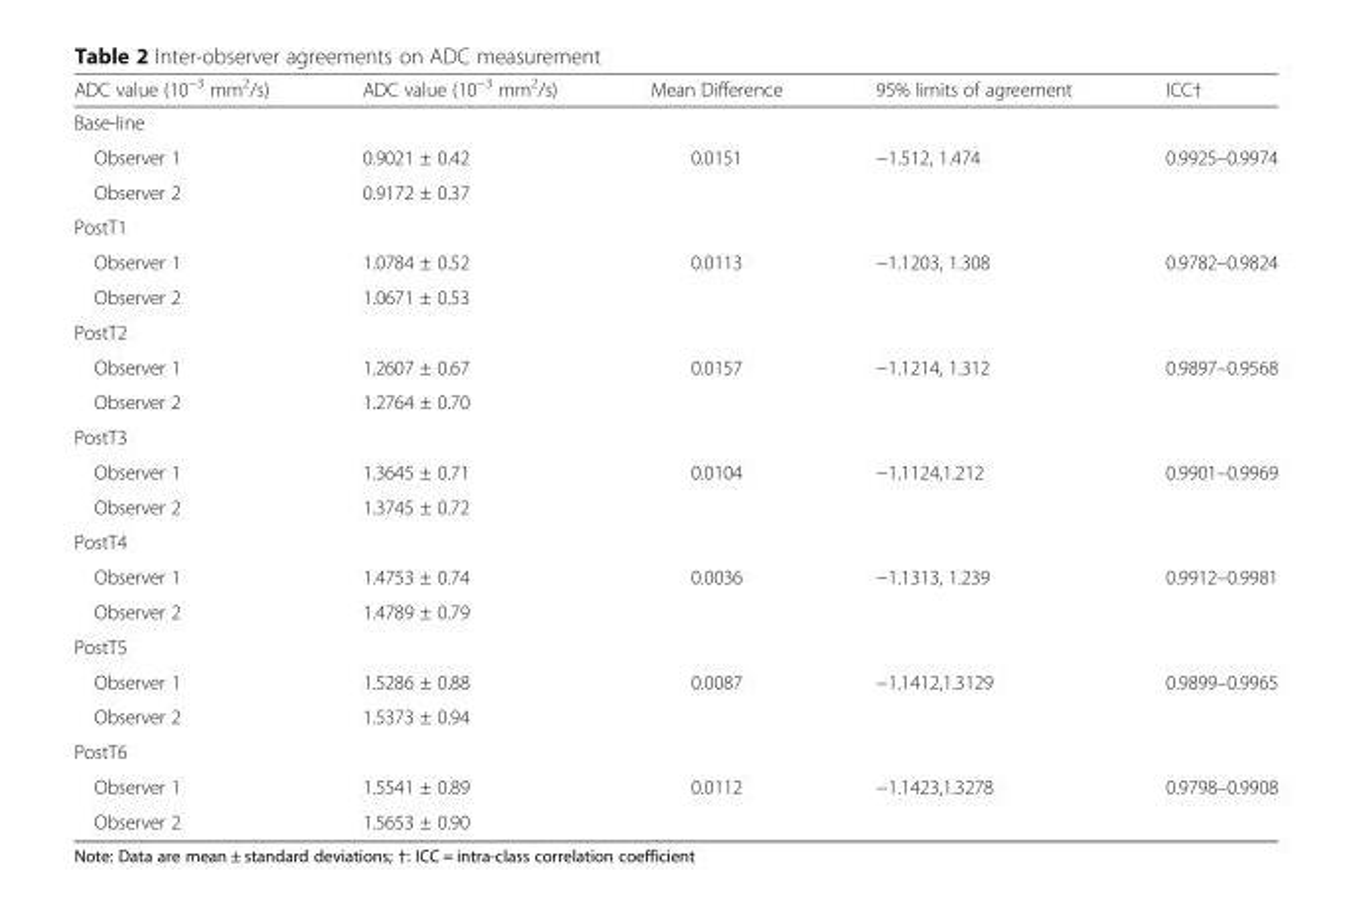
<table><thead><tr><td>ADC value (10−3 mm2/s)</td><td>ADC value (10−3 mm2/s)</td><td>Mean Difference</td><td>95% limits of agreement</td><td>ICC†</td></tr></thead><tbody><tr><td colspan="5">Base-line</td></tr><tr><td>Observer 1</td><td>0.9021 ± 0.42</td><td>0.0151</td><td>−1.512, 1.474</td><td>0.9925–0.9974</td></tr><tr><td>Observer 2</td><td>0.9172 ± 0.37</td><td></td><td></td><td></td></tr><tr><td colspan="5">PostT1</td></tr><tr><td>Observer 1</td><td>1.0784 ± 0.52</td><td>0.0113</td><td>−1.1203, 1.308</td><td>0.9782–0.9824</td></tr><tr><td>Observer 2</td><td>1.0671 ± 0.53</td><td></td><td></td><td></td></tr><tr><td colspan="5">PostT2</td></tr><tr><td>Observer 1</td><td>1.2607 ± 0.67</td><td>0.0157</td><td>−1.1214, 1.312</td><td>0.9897–0.9568</td></tr><tr><td>Observer 2</td><td>1.2764 ± 0.70</td><td></td><td></td><td></td></tr><tr><td colspan="5">PostT3</td></tr><tr><td>Observer 1</td><td>1.3645 ± 0.71</td><td>0.0104</td><td>−1.1124,1.212</td><td>0.9901–0.9969</td></tr><tr><td>Observer 2</td><td>1.3745 ± 0.72</td><td></td><td></td><td></td></tr><tr><td colspan="5">PostT4</td></tr><tr><td>Observer 1</td><td>1.4753 ± 0.74</td><td>0.0036</td><td>−1.1313, 1.239</td><td>0.9912–0.9981</td></tr><tr><td>Observer 2</td><td>1.4789 ± 0.79</td><td></td><td></td><td></td></tr><tr><td colspan="5">PostT5</td></tr><tr><td>Observer 1</td><td>1.5286 ± 0.88</td><td>0.0087</td><td>−1.1412,1.3129</td><td>0.9899–0.9965</td></tr><tr><td>Observer 2</td><td>1.5373 ± 0.94</td><td></td><td></td><td></td></tr><tr><td colspan="5">PostT6</td></tr><tr><td>Observer 1</td><td>1.5541 ± 0.89</td><td>0.0112</td><td>−1.1423,1.3278</td><td>0.9798–0.9908</td></tr><tr><td>Observer 2</td><td>1.5653 ± 0.90</td><td></td><td></td><td></td></tr></tbody></table>